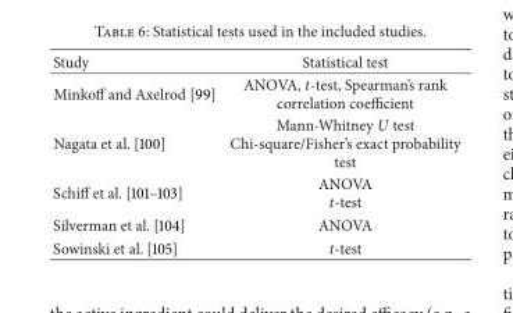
<table><thead><tr><td>Study</td><td>Statistical test</td></tr></thead><tbody><tr><td>Minkoff and Axelrod [99]</td><td>ANOVA, t-test, Spearman’s rank correlation coefficient</td></tr><tr><td>Nagata et al. [100]</td><td>Mann-Whitney U test Chi-square/Fisher’s exact probability test</td></tr><tr><td>Schiff et al. [101–103]</td><td>ANOVA t-test</td></tr><tr><td>Silverman et al. [104]</td><td>ANOVA</td></tr><tr><td>Sowinski et al. [105]</td><td>t-test</td></tr></tbody></table>